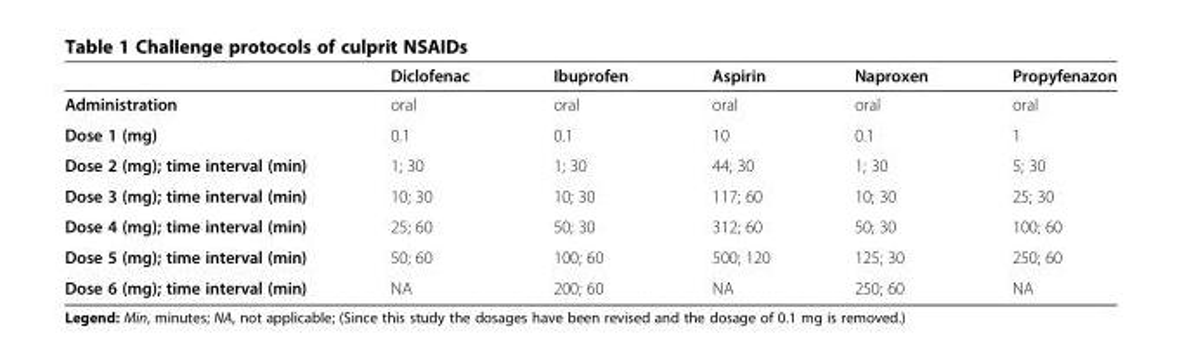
<table><thead><tr><td></td><td>Diclofenac</td><td>Ibuprofen</td><td>Aspirin</td><td>Naproxen</td><td>Propyfenazon</td></tr></thead><tbody><tr><td>Administration</td><td>oral</td><td>oral</td><td>oral</td><td>oral</td><td>oral</td></tr><tr><td>Dose 1 (mg)</td><td>0.1</td><td>0.1</td><td>10</td><td>0.1</td><td>1</td></tr><tr><td>Dose 2 (mg); time interval (min)</td><td>1; 30</td><td>1; 30</td><td>44; 30</td><td>1; 30</td><td>5; 30</td></tr><tr><td>Dose 3 (mg); time interval (min)</td><td>10; 30</td><td>10; 30</td><td>117; 60</td><td>10; 30</td><td>25; 30</td></tr><tr><td>Dose 4 (mg); time interval (min)</td><td>25; 60</td><td>50; 30</td><td>312; 60</td><td>50; 30</td><td>100; 60</td></tr><tr><td>Dose 5 (mg); time interval (min)</td><td>50; 60</td><td>100; 60</td><td>500; 120</td><td>125; 30</td><td>250; 60</td></tr><tr><td>Dose 6 (mg); time interval (min)</td><td>NA</td><td>200; 60</td><td>NA</td><td>250; 60</td><td>NA</td></tr></tbody></table>